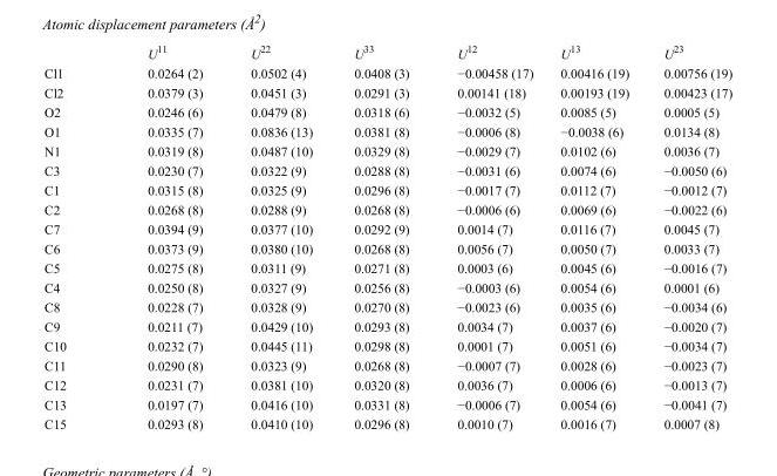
<table><thead><tr><td></td><td>U<sup>11</sup></td><td>U<sup>22</sup></td><td>U<sup>33</sup></td><td>U<sup>12</sup></td><td>U<sup>13</sup></td><td>U<sup>23</sup></td></tr></thead><tbody><tr><td>Cl1</td><td>0.0264 (2)</td><td>0.0502 (4)</td><td>0.0408 (3)</td><td>−0.00458 (17)</td><td>0.00416 (19)</td><td>0.00756 (19)</td></tr><tr><td>Cl2</td><td>0.0379 (3)</td><td>0.0451 (3)</td><td>0.0291 (3)</td><td>0.00141 (18)</td><td>0.00193 (19)</td><td>0.00423 (17)</td></tr><tr><td>O2</td><td>0.0246 (6)</td><td>0.0479 (8)</td><td>0.0318 (6)</td><td>−0.0032 (5)</td><td>0.0085 (5)</td><td>0.0005 (5)</td></tr><tr><td>O1</td><td>0.0335 (7)</td><td>0.0836 (13)</td><td>0.0381 (8)</td><td>−0.0006 (8)</td><td>−0.0038 (6)</td><td>0.0134 (8)</td></tr><tr><td>N1</td><td>0.0319 (8)</td><td>0.0487 (10)</td><td>0.0329 (8)</td><td>−0.0029 (7)</td><td>0.0102 (6)</td><td>0.0036 (7)</td></tr><tr><td>C3</td><td>0.0230 (7)</td><td>0.0322 (9)</td><td>0.0288 (8)</td><td>−0.0031 (6)</td><td>0.0074 (6)</td><td>−0.0050 (6)</td></tr><tr><td>C1</td><td>0.0315 (8)</td><td>0.0325 (9)</td><td>0.0296 (8)</td><td>−0.0017 (7)</td><td>0.0112 (7)</td><td>−0.0012 (7)</td></tr><tr><td>C2</td><td>0.0268 (8)</td><td>0.0288 (9)</td><td>0.0268 (8)</td><td>−0.0006 (6)</td><td>0.0069 (6)</td><td>−0.0022 (6)</td></tr><tr><td>C7</td><td>0.0394 (9)</td><td>0.0377 (10)</td><td>0.0292 (9)</td><td>0.0014 (7)</td><td>0.0116 (7)</td><td>0.0045 (7)</td></tr><tr><td>C6</td><td>0.0373 (9)</td><td>0.0380 (10)</td><td>0.0268 (8)</td><td>0.0056 (7)</td><td>0.0050 (7)</td><td>0.0033 (7)</td></tr><tr><td>C5</td><td>0.0275 (8)</td><td>0.0311 (9)</td><td>0.0271 (8)</td><td>0.0003 (6)</td><td>0.0045 (6)</td><td>−0.0016 (7)</td></tr><tr><td>C4</td><td>0.0250 (8)</td><td>0.0327 (9)</td><td>0.0256 (8)</td><td>−0.0003 (6)</td><td>0.0054 (6)</td><td>0.0001 (6)</td></tr><tr><td>C8</td><td>0.0228 (7)</td><td>0.0328 (9)</td><td>0.0270 (8)</td><td>−0.0023 (6)</td><td>0.0035 (6)</td><td>−0.0034 (6)</td></tr><tr><td>C9</td><td>0.0211 (7)</td><td>0.0429 (10)</td><td>0.0293 (8)</td><td>0.0034 (7)</td><td>0.0037 (6)</td><td>−0.0020 (7)</td></tr><tr><td>C10</td><td>0.0232 (7)</td><td>0.0445 (11)</td><td>0.0298 (8)</td><td>0.0001 (7)</td><td>0.0051 (6)</td><td>−0.0034 (7)</td></tr><tr><td>C11</td><td>0.0290 (8)</td><td>0.0323 (9)</td><td>0.0268 (8)</td><td>−0.0007 (7)</td><td>0.0028 (6)</td><td>−0.0023 (7)</td></tr><tr><td>C12</td><td>0.0231 (7)</td><td>0.0381 (10)</td><td>0.0320 (8)</td><td>0.0036 (7)</td><td>0.0006 (6)</td><td>−0.0013 (7)</td></tr><tr><td>C13</td><td>0.0197 (7)</td><td>0.0416 (10)</td><td>0.0331 (8)</td><td>−0.0006 (7)</td><td>0.0054 (6)</td><td>−0.0041 (7)</td></tr><tr><td>C15</td><td>0.0293 (8)</td><td>0.0410 (10)</td><td>0.0296 (8)</td><td>0.0010 (7)</td><td>0.0016 (7)</td><td>0.0007 (8)</td></tr></tbody></table>